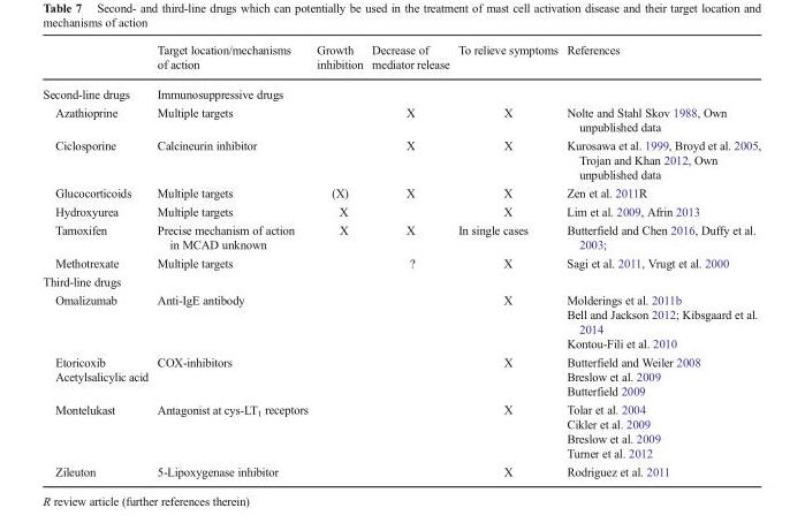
<table><thead><tr><td></td><td>Target location/mechanisms of action</td><td>Growth inhibition</td><td>Decrease of mediator release</td><td>To relieve symptoms</td><td>References</td></tr></thead><tbody><tr><td>Second-line drugs</td><td>Immunosuppressive drugs</td><td></td><td></td><td></td><td></td></tr><tr><td>Azathioprine</td><td>Multiple targets</td><td></td><td>X</td><td>X</td><td>Nolte and Stahl Skov 1988, Own unpublished data</td></tr><tr><td>Ciclosporine</td><td>Calcineurin inhibitor</td><td></td><td>X</td><td>X</td><td>Kurosawa et al. 1999, Broyd et al. 2005, Trojan and Khan 2012, Own unpublished data</td></tr><tr><td>Glucocorticoids</td><td>Multiple targets</td><td>(X)</td><td>X</td><td>X</td><td>Zen et al. 2011R</td></tr><tr><td>Hydroxyurea</td><td>Multiple targets</td><td>X</td><td></td><td>X</td><td>Lim et al. 2009, Afrin 2013</td></tr><tr><td>Tamoxifen</td><td>Precise mechanism of action in MCAD unknown</td><td>X</td><td>X</td><td>In single cases</td><td>Butterfield and Chen 2016, Duffy et al. 2003;</td></tr><tr><td>Methotrexate</td><td>Multiple targets</td><td></td><td>?</td><td>X</td><td>Sagi et al. 2011, Vrugt et al. 2000</td></tr><tr><td colspan="6">Third-line drugs</td></tr><tr><td>Omalizumab</td><td>Anti-IgE antibody</td><td></td><td></td><td>X</td><td>Molderings et al. 2011b Bell and Jackson 2012; Kibsgaard et al. 2014 Kontou-Fili et al. 2010</td></tr><tr><td>Etoricoxib Acetylsalicylic acid</td><td>COX-inhibitors</td><td></td><td></td><td>X</td><td>Butterfield and Weiler 2008 Breslow et al. 2009 Butterfield 2009</td></tr><tr><td>Montelukast</td><td>Antagonist at cys-LT<sub>1</sub> receptors</td><td></td><td></td><td>X</td><td>Tolar et al. 2004 Cikler et al. 2009 Breslow et al. 2009 Turner et al. 2012</td></tr><tr><td>Zileuton</td><td>5-Lipoxygenase inhibitor</td><td></td><td></td><td>X</td><td>Rodriguez et al. 2011</td></tr></tbody></table>